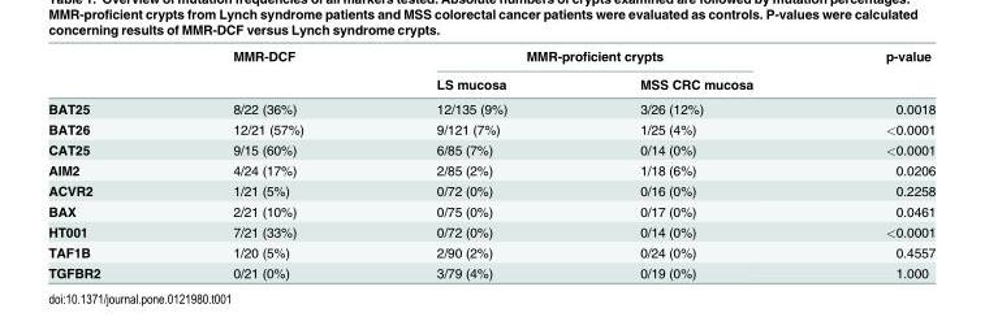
<table><thead><tr><td rowspan="2"></td><td rowspan="2">MMR-DCF</td><td colspan="2">MMR-proficient crypts</td><td rowspan="2">p-value</td></tr><tr><td>LS mucosa</td><td>MSS CRC mucosa</td></tr></thead><tbody><tr><td>BAT25</td><td>8/22 (36%)</td><td>12/135 (9%)</td><td>3/26 (12%)</td><td>0.0018</td></tr><tr><td>BAT26</td><td>12/21 (57%)</td><td>9/121 (7%)</td><td>1/25 (4%)</td><td>&lt;0.0001</td></tr><tr><td>CAT25</td><td>9/15 (60%)</td><td>6/85 (7%)</td><td>0/14 (0%)</td><td>&lt;0.0001</td></tr><tr><td>AIM2</td><td>4/24 (17%)</td><td>2/85 (2%)</td><td>1/18 (6%)</td><td>0.0206</td></tr><tr><td>ACVR2</td><td>1/21 (5%)</td><td>0/72 (0%)</td><td>0/16 (0%)</td><td>0.2258</td></tr><tr><td>BAX</td><td>2/21 (10%)</td><td>0/75 (0%)</td><td>0/17 (0%)</td><td>0.0461</td></tr><tr><td>HT001</td><td>7/21 (33%)</td><td>0/72 (0%)</td><td>0/14 (0%)</td><td>&lt;0.0001</td></tr><tr><td>TAF1B</td><td>1/20 (5%)</td><td>2/90 (2%)</td><td>0/24 (0%)</td><td>0.4557</td></tr><tr><td>TGFBR2</td><td>0/21 (0%)</td><td>3/79 (4%)</td><td>0/19 (0%)</td><td>1.000</td></tr></tbody></table>